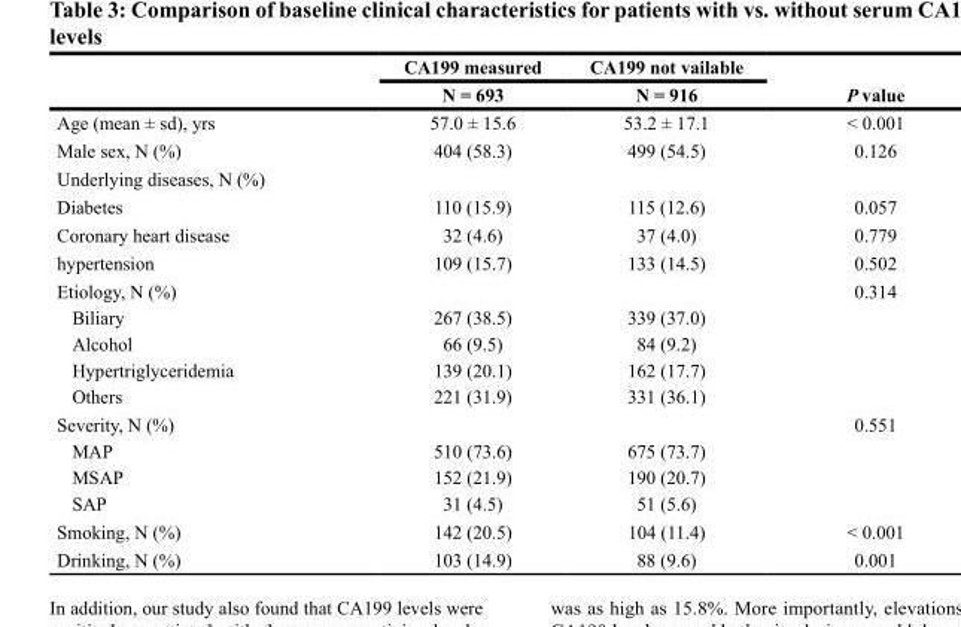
<table><thead><tr><td rowspan="2"></td><td rowspan="2">CA199 measured N = 693</td><td rowspan="2">CA199 not vailable N = 916</td><td rowspan="2">P value</td></tr><tr></tr></thead><tbody><tr><td>Age (mean ± sd), yrs</td><td>57.0 ± 15.6</td><td>53.2 ± 17.1</td><td>&lt; 0.001</td></tr><tr><td>Male sex, N (%)</td><td>404 (58.3)</td><td>499 (54.5)</td><td>0.126</td></tr><tr><td colspan="4">Underlying diseases, N (%)</td></tr><tr><td>Diabetes</td><td>110 (15.9)</td><td>115 (12.6)</td><td>0.057</td></tr><tr><td>Coronary heart disease</td><td>32 (4.6)</td><td>37 (4.0)</td><td>0.779</td></tr><tr><td>hypertension</td><td>109 (15.7)</td><td>133 (14.5)</td><td>0.502</td></tr><tr><td>Etiology, N (%)</td><td></td><td></td><td>0.314</td></tr><tr><td>Biliary</td><td>267 (38.5)</td><td>339 (37.0)</td><td></td></tr><tr><td>Alcohol</td><td>66 (9.5)</td><td>84 (9.2)</td><td></td></tr><tr><td>Hypertriglyceridemia</td><td>139 (20.1)</td><td>162 (17.7)</td><td></td></tr><tr><td>Others</td><td>221 (31.9)</td><td>331 (36.1)</td><td></td></tr><tr><td>Severity, N (%)</td><td></td><td></td><td>0.551</td></tr><tr><td>MAP</td><td>510 (73.6)</td><td>675 (73.7)</td><td></td></tr><tr><td>MSAP</td><td>152 (21.9)</td><td>190 (20.7)</td><td></td></tr><tr><td>SAP</td><td>31 (4.5)</td><td>51 (5.6)</td><td></td></tr><tr><td>Smoking, N (%)</td><td>142 (20.5)</td><td>104 (11.4)</td><td>&lt; 0.001</td></tr><tr><td>Drinking, N (%)</td><td>103 (14.9)</td><td>88 (9.6)</td><td>0.001</td></tr></tbody></table>